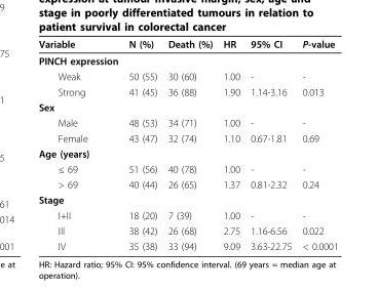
<table><thead><tr><td>Variable</td><td>N (%)</td><td>Death (%)</td><td>HR</td><td>95% CI</td><td>P-value</td></tr></thead><tbody><tr><td colspan="6">PINCH expression</td></tr><tr><td>Weak</td><td>50 (55)</td><td>30 (60)</td><td>1.00</td><td>-</td><td>-</td></tr><tr><td>Strong</td><td>41 (45)</td><td>36 (88)</td><td>1.90</td><td>1.14-3.16</td><td>0.013</td></tr><tr><td colspan="6">Sex</td></tr><tr><td>Male</td><td>48 (53)</td><td>34 (71)</td><td>1.00</td><td>-</td><td>-</td></tr><tr><td>Female</td><td>43 (47)</td><td>32 (74)</td><td>1.10</td><td>0.67-1.81</td><td>0.69</td></tr><tr><td colspan="6">Age (years)</td></tr><tr><td>≤ 69</td><td>51 (56)</td><td>40 (78)</td><td>1.00</td><td>-</td><td>-</td></tr><tr><td>&gt; 69</td><td>40 (44)</td><td>26 (65)</td><td>1.37</td><td>0.81-2.32</td><td>0.24</td></tr><tr><td colspan="6">Stage</td></tr><tr><td>I+II</td><td>18 (20)</td><td>7 (39)</td><td>1.00</td><td>-</td><td>-</td></tr><tr><td>III</td><td>38 (42)</td><td>26 (68)</td><td>2.75</td><td>1.16-6.56</td><td>0.022</td></tr><tr><td>IV</td><td>35 (38)</td><td>33 (94)</td><td>9.09</td><td>3.63-22.75</td><td>&lt; 0.0001</td></tr></tbody></table>